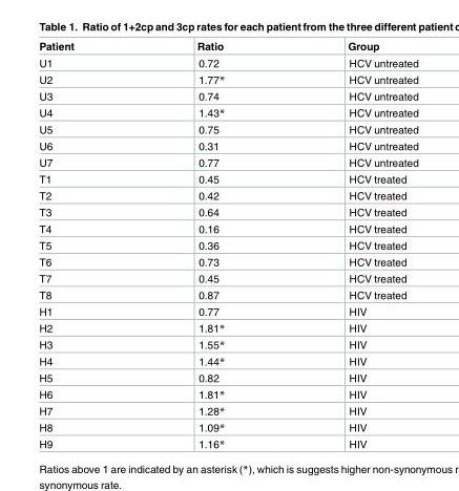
<table><thead><tr><td>Patient</td><td>Ratio</td><td>Group</td></tr></thead><tbody><tr><td>U1</td><td>0.72</td><td>HCV untreated</td></tr><tr><td>U2</td><td>1.77*</td><td>HCV untreated</td></tr><tr><td>U3</td><td>0.74</td><td>HCV untreated</td></tr><tr><td>U4</td><td>1.43*</td><td>HCV untreated</td></tr><tr><td>U5</td><td>0.75</td><td>HCV untreated</td></tr><tr><td>U6</td><td>0.31</td><td>HCV untreated</td></tr><tr><td>U7</td><td>0.77</td><td>HCV untreated</td></tr><tr><td>T1</td><td>0.45</td><td>HCV treated</td></tr><tr><td>T2</td><td>0.42</td><td>HCV treated</td></tr><tr><td>T3</td><td>0.64</td><td>HCV treated</td></tr><tr><td>T4</td><td>0.16</td><td>HCV treated</td></tr><tr><td>T5</td><td>0.36</td><td>HCV treated</td></tr><tr><td>T6</td><td>0.73</td><td>HCV treated</td></tr><tr><td>T7</td><td>0.45</td><td>HCV treated</td></tr><tr><td>T8</td><td>0.87</td><td>HCV treated</td></tr><tr><td>H1</td><td>0.77</td><td>HIV</td></tr><tr><td>H2</td><td>1.81*</td><td>HIV</td></tr><tr><td>H3</td><td>1.55*</td><td>HIV</td></tr><tr><td>H4</td><td>1.44*</td><td>HIV</td></tr><tr><td>H5</td><td>0.82</td><td>HIV</td></tr><tr><td>H6</td><td>1.81*</td><td>HIV</td></tr><tr><td>H7</td><td>1.28*</td><td>HIV</td></tr><tr><td>H8</td><td>1.09*</td><td>HIV</td></tr><tr><td>H9</td><td>1.16*</td><td>HIV</td></tr></tbody></table>